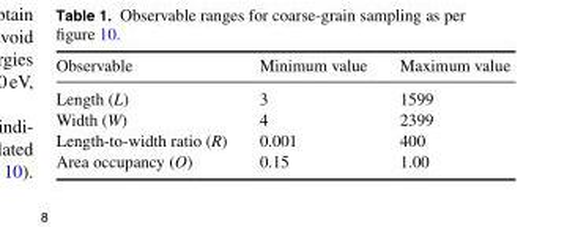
<table><thead><tr><td>Observable</td><td>Minimum value</td><td>Maximum value</td></tr></thead><tbody><tr><td>Length (L)</td><td>3</td><td>1599</td></tr><tr><td>Width (W)</td><td>4</td><td>2399</td></tr><tr><td>Length-to-width ratio (R)</td><td>0.001</td><td>400</td></tr><tr><td>Area occupancy (O)</td><td>0.15</td><td>1.00</td></tr></tbody></table>